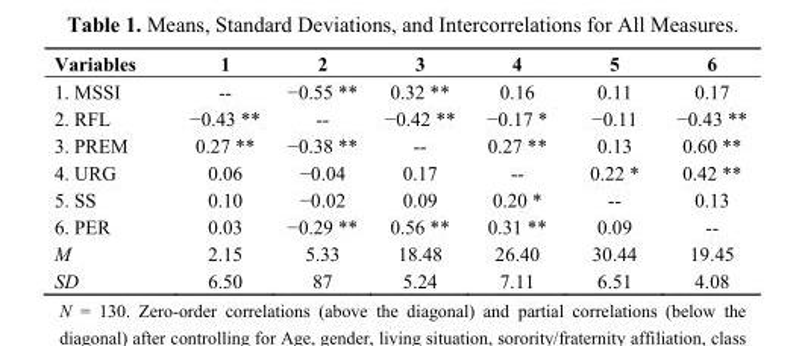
<table><thead><tr><td>Variables</td><td>1</td><td>2</td><td>3</td><td>4</td><td>5</td><td>6</td></tr></thead><tbody><tr><td>1. MSSI</td><td>--</td><td>−0.55 **</td><td>0.32 **</td><td>0.16</td><td>0.11</td><td>0.17</td></tr><tr><td>2. RFL</td><td>−0.43 **</td><td>--</td><td>−0.42 **</td><td>−0.17 *</td><td>−0.11</td><td>−0.43 **</td></tr><tr><td>3. PREM</td><td>0.27 **</td><td>−0.38 **</td><td>--</td><td>0.27 **</td><td>0.13</td><td>0.60 **</td></tr><tr><td>4. URG</td><td>0.06</td><td>−0.04</td><td>0.17</td><td>--</td><td>0.22 *</td><td>0.42 **</td></tr><tr><td>5. SS</td><td>0.10</td><td>−0.02</td><td>0.09</td><td>0.20 *</td><td>--</td><td>0.13</td></tr><tr><td>6. PER</td><td>0.03</td><td>−0.29 **</td><td>0.56 **</td><td>0.31 **</td><td>0.09</td><td>--</td></tr><tr><td>M</td><td>2.15</td><td>5.33</td><td>18.48</td><td>26.40</td><td>30.44</td><td>19.45</td></tr><tr><td>SD</td><td>6.50</td><td>87</td><td>5.24</td><td>7.11</td><td>6.51</td><td>4.08</td></tr></tbody></table>